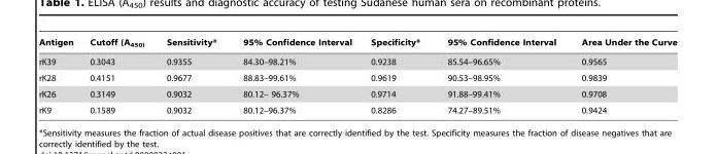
<table><thead><tr><td>Antigen</td><td>Cutoff (A<sub>450)</sub></td><td>Sensitivity*</td><td>95% Confidence Interval</td><td>Specificity*</td><td>95% Confidence Interval</td><td>Area Under the Curve</td></tr></thead><tbody><tr><td>rK39</td><td>0.3043</td><td>0.9355</td><td>84.30–98.21%</td><td>0.9238</td><td>85.54–96.65%</td><td>0.9565</td></tr><tr><td>rK28</td><td>0.4151</td><td>0.9677</td><td>88.83–99.61%</td><td>0.9619</td><td>90.53–98.95%</td><td>0.9839</td></tr><tr><td>rK26</td><td>0.3149</td><td>0.9032</td><td>80.12– 96.37%</td><td>0.9714</td><td>91.88–99.41%</td><td>0.9708</td></tr><tr><td>rK9</td><td>0.1589</td><td>0.9032</td><td>80.12–96.37%</td><td>0.8286</td><td>74.27–89.51%</td><td>0.9424</td></tr></tbody></table>